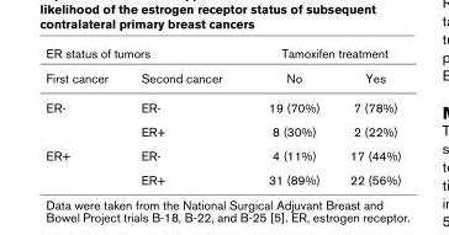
<table><thead><tr><td colspan="2">ER status of tumors</td><td colspan="2">Tamoxifen treatment</td></tr><tr><td>First cancer</td><td>Second cancer</td><td>No</td><td>Yes</td></tr></thead><tbody><tr><td rowspan="2">ER-</td><td>ER-</td><td>19 (70%)</td><td>7 (78%)</td></tr><tr><td>ER+</td><td>8 (30%)</td><td>2 (22%)</td></tr><tr><td rowspan="2">ER+</td><td>ER-</td><td>4 (11%)</td><td>17 (44%)</td></tr><tr><td>ER+</td><td>31 (89%)</td><td>22 (56%)</td></tr></tbody></table>